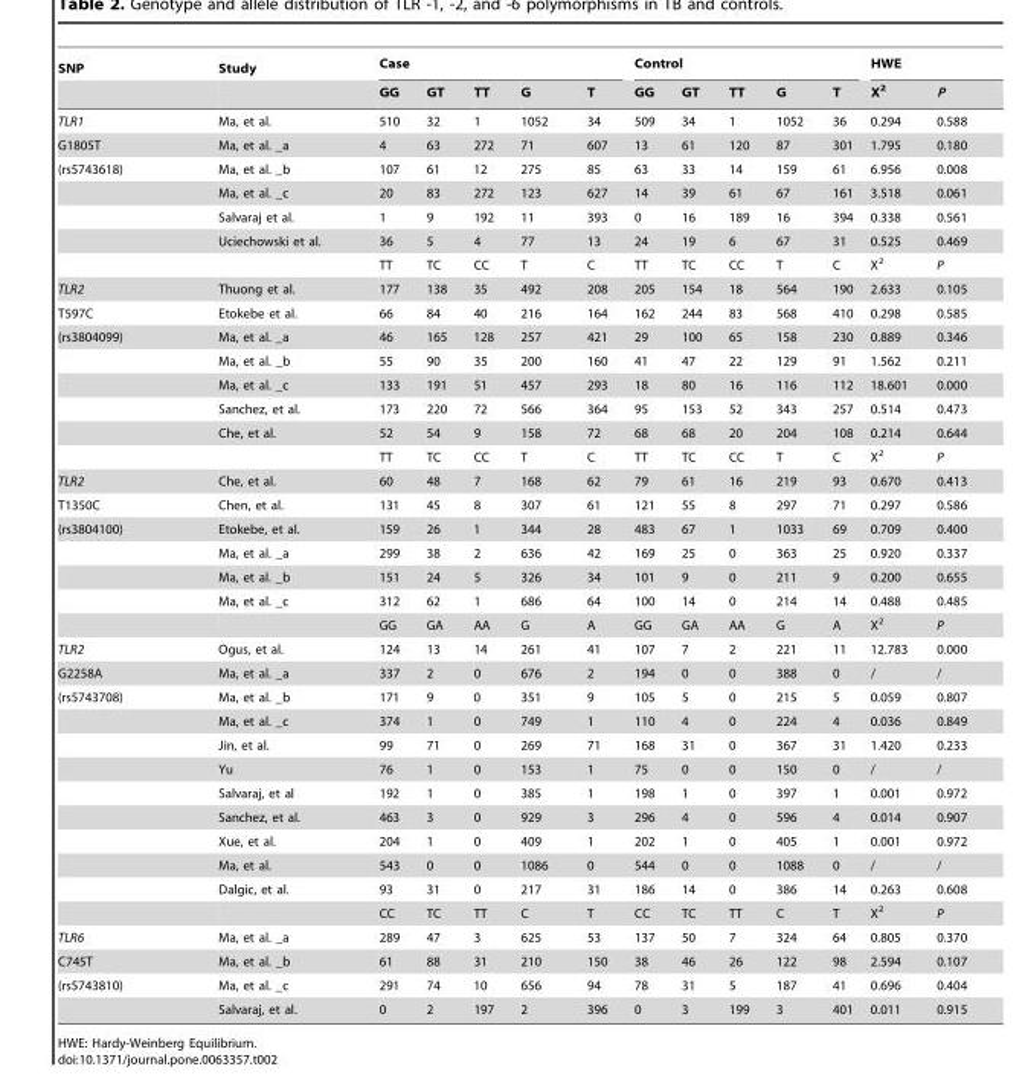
<table><thead><tr><td rowspan="2">SNP</td><td rowspan="2">Study</td><td colspan="5">Case</td><td colspan="5">Control</td><td colspan="2">HWE</td></tr><tr><td>GG</td><td>GT</td><td>TT</td><td>G</td><td>T</td><td>GG</td><td>GT</td><td>TT</td><td>G</td><td>T</td><td>X<sup>2</sup></td><td>P</td></tr></thead><tbody><tr><td>TLR1</td><td>Ma, et al.</td><td>510</td><td>32</td><td>1</td><td>1052</td><td>34</td><td>509</td><td>34</td><td>1</td><td>1052</td><td>36</td><td>0.294</td><td>0.588</td></tr><tr><td>G1805T</td><td>Ma, et al. _a</td><td>4</td><td>63</td><td>272</td><td>71</td><td>607</td><td>13</td><td>61</td><td>120</td><td>87</td><td>301</td><td>1.795</td><td>0.180</td></tr><tr><td rowspan="5">(rs5743618)</td><td>Ma, et al. _b</td><td>107</td><td>61</td><td>12</td><td>275</td><td>85</td><td>63</td><td>33</td><td>14</td><td>159</td><td>61</td><td>6.956</td><td>0.008</td></tr><tr><td>Ma, et al. _c</td><td>20</td><td>83</td><td>272</td><td>123</td><td>627</td><td>14</td><td>39</td><td>61</td><td>67</td><td>161</td><td>3.518</td><td>0.061</td></tr><tr><td>Salvaraj et al.</td><td>1</td><td>9</td><td>192</td><td>11</td><td>393</td><td>0</td><td>16</td><td>189</td><td>16</td><td>394</td><td>0.338</td><td>0.561</td></tr><tr><td>Uciechowski et al.</td><td>36</td><td>5</td><td>4</td><td>77</td><td>13</td><td>24</td><td>19</td><td>6</td><td>67</td><td>31</td><td>0.525</td><td>0.469</td></tr><tr><td></td><td>TT</td><td>TC</td><td>CC</td><td>T</td><td>C</td><td>TT</td><td>TC</td><td>CC</td><td>T</td><td>C</td><td>X<sup>2</sup></td><td>P</td></tr><tr><td>TLR2</td><td>Thuong et al.</td><td>177</td><td>138</td><td>35</td><td>492</td><td>208</td><td>205</td><td>154</td><td>18</td><td>564</td><td>190</td><td>2.633</td><td>0.105</td></tr><tr><td>T597C</td><td>Etokebe et al.</td><td>66</td><td>84</td><td>40</td><td>216</td><td>164</td><td>162</td><td>244</td><td>83</td><td>568</td><td>410</td><td>0.298</td><td>0.585</td></tr><tr><td rowspan="6">(rs3804099)</td><td>Ma, et al. _a</td><td>46</td><td>165</td><td>128</td><td>257</td><td>421</td><td>29</td><td>100</td><td>65</td><td>158</td><td>230</td><td>0.889</td><td>0.346</td></tr><tr><td>Ma, et al. _b</td><td>55</td><td>90</td><td>35</td><td>200</td><td>160</td><td>41</td><td>47</td><td>22</td><td>129</td><td>91</td><td>1.562</td><td>0.211</td></tr><tr><td>Ma, et al. _c</td><td>133</td><td>191</td><td>51</td><td>457</td><td>293</td><td>18</td><td>80</td><td>16</td><td>116</td><td>112</td><td>18.601</td><td>0.000</td></tr><tr><td>Sanchez, et al.</td><td>173</td><td>220</td><td>72</td><td>566</td><td>364</td><td>95</td><td>153</td><td>52</td><td>343</td><td>257</td><td>0.514</td><td>0.473</td></tr><tr><td>Che, et al.</td><td>52</td><td>54</td><td>9</td><td>158</td><td>72</td><td>68</td><td>68</td><td>20</td><td>204</td><td>108</td><td>0.214</td><td>0.644</td></tr><tr><td></td><td>TT</td><td>TC</td><td>CC</td><td>T</td><td>C</td><td>TT</td><td>TC</td><td>CC</td><td>T</td><td>C</td><td>X<sup>2</sup></td><td>P</td></tr><tr><td>TLR2</td><td>Che, et al.</td><td>60</td><td>48</td><td>7</td><td>168</td><td>62</td><td>79</td><td>61</td><td>16</td><td>219</td><td>93</td><td>0.670</td><td>0.413</td></tr><tr><td>T1350C</td><td>Chen, et al.</td><td>131</td><td>45</td><td>8</td><td>307</td><td>61</td><td>121</td><td>55</td><td>8</td><td>297</td><td>71</td><td>0.297</td><td>0.586</td></tr><tr><td rowspan="5">(rs3804100)</td><td>Etokebe, et al.</td><td>159</td><td>26</td><td>1</td><td>344</td><td>28</td><td>483</td><td>67</td><td>1</td><td>1033</td><td>69</td><td>0.709</td><td>0.400</td></tr><tr><td>Ma, et al. _a</td><td>299</td><td>38</td><td>2</td><td>636</td><td>42</td><td>169</td><td>25</td><td>0</td><td>363</td><td>25</td><td>0.920</td><td>0.337</td></tr><tr><td>Ma, et al. _b</td><td>151</td><td>24</td><td>5</td><td>326</td><td>34</td><td>101</td><td>9</td><td>0</td><td>211</td><td>9</td><td>0.200</td><td>0.655</td></tr><tr><td>Ma, et al. _c</td><td>312</td><td>62</td><td>1</td><td>686</td><td>64</td><td>100</td><td>14</td><td>0</td><td>214</td><td>14</td><td>0.488</td><td>0.485</td></tr><tr><td></td><td>GG</td><td>GA</td><td>AA</td><td>G</td><td>A</td><td>GG</td><td>GA</td><td>AA</td><td>G</td><td>A</td><td>X<sup>2</sup></td><td>P</td></tr><tr><td>TLR2</td><td>Ogus, et al.</td><td>124</td><td>13</td><td>14</td><td>261</td><td>41</td><td>107</td><td>7</td><td>2</td><td>221</td><td>11</td><td>12.783</td><td>0.000</td></tr><tr><td>G2258A</td><td>Ma, et al. _a</td><td>337</td><td>2</td><td>0</td><td>676</td><td>2</td><td>194</td><td>0</td><td>0</td><td>388</td><td>0</td><td>/</td><td>/</td></tr><tr><td rowspan="10">(rs5743708)</td><td>Ma, et al. _b</td><td>171</td><td>9</td><td>0</td><td>351</td><td>9</td><td>105</td><td>5</td><td>0</td><td>215</td><td>5</td><td>0.059</td><td>0.807</td></tr><tr><td>Ma, et al. _c</td><td>374</td><td>1</td><td>0</td><td>749</td><td>1</td><td>110</td><td>4</td><td>0</td><td>224</td><td>4</td><td>0.036</td><td>0.849</td></tr><tr><td>Jin, et al.</td><td>99</td><td>71</td><td>0</td><td>269</td><td>71</td><td>168</td><td>31</td><td>0</td><td>367</td><td>31</td><td>1.420</td><td>0.233</td></tr><tr><td>Yu</td><td>76</td><td>1</td><td>0</td><td>153</td><td>1</td><td>75</td><td>0</td><td>0</td><td>150</td><td>0</td><td>/</td><td>/</td></tr><tr><td>Salvaraj, et al</td><td>192</td><td>1</td><td>0</td><td>385</td><td>1</td><td>198</td><td>1</td><td>0</td><td>397</td><td>1</td><td>0.001</td><td>0.972</td></tr><tr><td>Sanchez, et al.</td><td>463</td><td>3</td><td>0</td><td>929</td><td>3</td><td>296</td><td>4</td><td>0</td><td>596</td><td>4</td><td>0.014</td><td>0.907</td></tr><tr><td>Xue, et al.</td><td>204</td><td>1</td><td>0</td><td>409</td><td>1</td><td>202</td><td>1</td><td>0</td><td>405</td><td>1</td><td>0.001</td><td>0.972</td></tr><tr><td>Ma, et al.</td><td>543</td><td>0</td><td>0</td><td>1086</td><td>0</td><td>544</td><td>0</td><td>0</td><td>1088</td><td>0</td><td>/</td><td>/</td></tr><tr><td>Dalgic, et al.</td><td>93</td><td>31</td><td>0</td><td>217</td><td>31</td><td>186</td><td>14</td><td>0</td><td>386</td><td>14</td><td>0.263</td><td>0.608</td></tr><tr><td></td><td>CC</td><td>TC</td><td>TT</td><td>C</td><td>T</td><td>CC</td><td>TC</td><td>TT</td><td>C</td><td>T</td><td>X<sup>2</sup></td><td>P</td></tr><tr><td>TLR6</td><td>Ma, et al. _a</td><td>289</td><td>47</td><td>3</td><td>625</td><td>53</td><td>137</td><td>50</td><td>7</td><td>324</td><td>64</td><td>0.805</td><td>0.370</td></tr><tr><td>C745T</td><td>Ma, et al. _b</td><td>61</td><td>88</td><td>31</td><td>210</td><td>150</td><td>38</td><td>46</td><td>26</td><td>122</td><td>98</td><td>2.594</td><td>0.107</td></tr><tr><td rowspan="2">(rs5743810)</td><td>Ma, et al. _c</td><td>291</td><td>74</td><td>10</td><td>656</td><td>94</td><td>78</td><td>31</td><td>5</td><td>187</td><td>41</td><td>0.696</td><td>0.404</td></tr><tr><td>Salvaraj, et al.</td><td>0</td><td>2</td><td>197</td><td>2</td><td>396</td><td>0</td><td>3</td><td>199</td><td>3</td><td>401</td><td>0.011</td><td>0.915</td></tr></tbody></table>